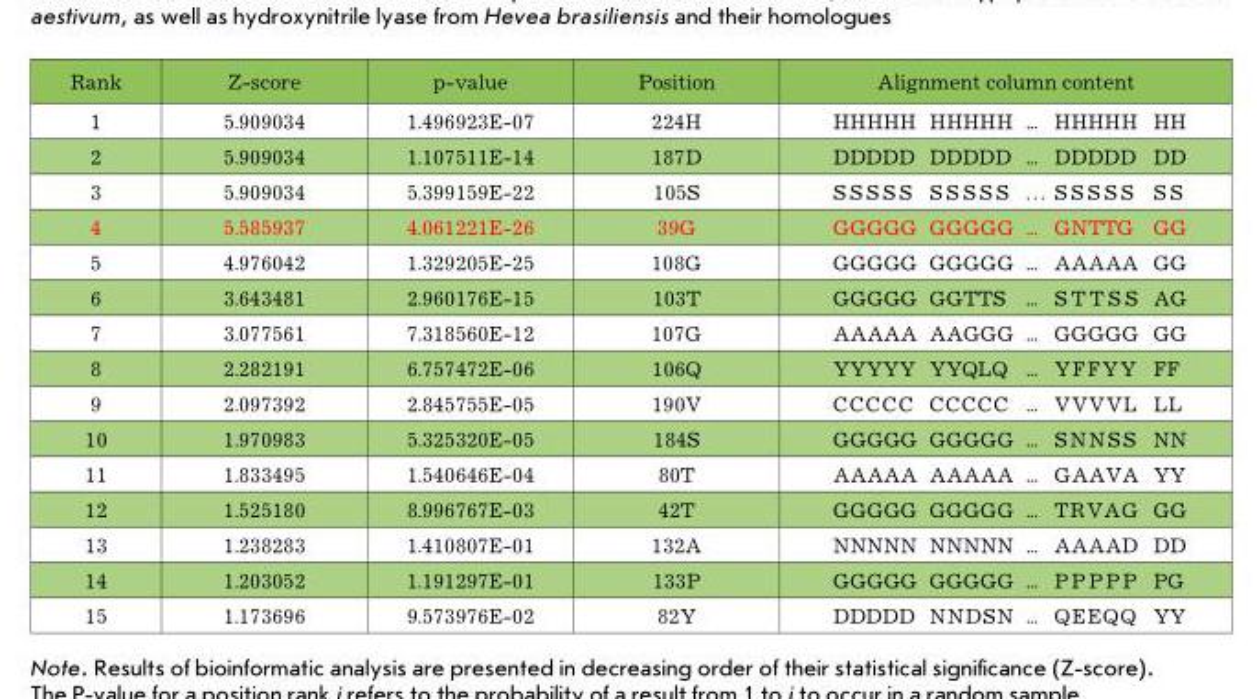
<table><thead><tr><td>Rank</td><td>Z-score</td><td>p-value</td><td>Position</td><td>Alignment column content</td></tr></thead><tbody><tr><td>1</td><td>5.909034</td><td>1.496923E-07</td><td>224H</td><td>HHHHH HHHHH ... HHHHH HH</td></tr><tr><td>2</td><td>5.909034</td><td>1.107511E-14</td><td>187D</td><td>DDDDD DDDDD ... DDDDD DD</td></tr><tr><td>3</td><td>5.909034</td><td>5.399159E-22</td><td>105S</td><td>S S S S S S S S S S . . . S S S S S S S</td></tr><tr><td>4</td><td>5.585937</td><td>4.061221E-26</td><td>39G</td><td>GGGGG GGGGG ... GNTTG GG</td></tr><tr><td>5</td><td>4.976042</td><td>1.329205E-25</td><td>108G</td><td>GGGGG GGGGG ... AAAAA GG</td></tr><tr><td>6</td><td>3.643481</td><td>2.960176E-15</td><td>103T</td><td>GGGGG GGTTS ... S T T S S AG</td></tr><tr><td>7</td><td>3.077561</td><td>7.318560E-12</td><td>107G</td><td>AAAAA AAGGG ... GGGGG GG</td></tr><tr><td>8</td><td>2.282191</td><td>6.757472E-06</td><td>106Q</td><td>YYYYY YYQLQ ... YFFYY FF</td></tr><tr><td>9</td><td>2.097392</td><td>2.845755E-05</td><td>190V</td><td>CCCCC CCCCC ... VVVVL LL</td></tr><tr><td>10</td><td>1.970983</td><td>5.325320E-05</td><td>184S</td><td>GGGGG GGGGG ... SNNSS NN</td></tr><tr><td>11</td><td>1.833495</td><td>1.540646E-04</td><td>80T</td><td>AAAAA AAAAA ... GAAVA YY</td></tr><tr><td>12</td><td>1.525180</td><td>8.996767E-03</td><td>42T</td><td>GGGGG GGGGG ... TRVAG GG</td></tr><tr><td>13</td><td>1.238283</td><td>1.410807E-01</td><td>132A</td><td>NNNNN NNNNN ... AAAAD DD</td></tr><tr><td>14</td><td>1.203052</td><td>1.191297E-01</td><td>133P</td><td>GGGGG GGGGG ... PPPPP PG</td></tr><tr><td>15</td><td>1.173696</td><td>9.573976E-02</td><td>82Y</td><td>DDDDD NNDSN ... QEEQQ YY</td></tr></tbody></table>